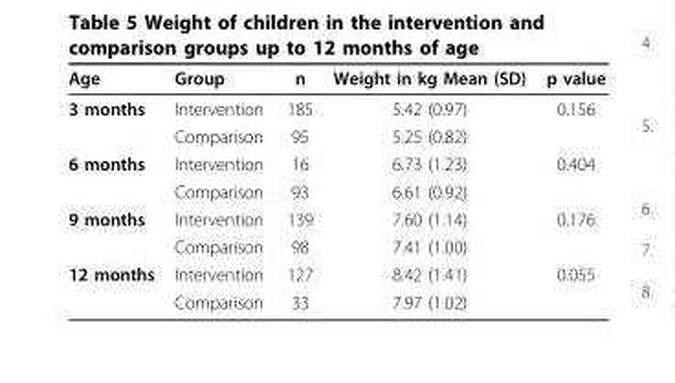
<table><thead><tr><td>Age</td><td>Group</td><td>n</td><td>Weight in kg Mean (SD)</td><td>p value</td></tr></thead><tbody><tr><td rowspan="2">3 months</td><td>Intervention</td><td>185</td><td>5.42 (0.97)</td><td>0.156</td></tr><tr><td>Comparison</td><td>95</td><td>5.25 (0.82)</td><td></td></tr><tr><td rowspan="2">6 months</td><td>Intervention</td><td>16</td><td>6.73 (1.23)</td><td>0.404</td></tr><tr><td>Comparison</td><td>93</td><td>6.61 (0.92)</td><td></td></tr><tr><td rowspan="2">9 months</td><td>Intervention</td><td>139</td><td>7.60 (1.14)</td><td>0.176</td></tr><tr><td>Comparison</td><td>98</td><td>7.41 (1.00)</td><td></td></tr><tr><td rowspan="2">12 months</td><td>Intervention</td><td>127</td><td>8.42 (1.41)</td><td>0.055</td></tr><tr><td>Comparison</td><td>33</td><td>7.97 (1.02)</td><td></td></tr></tbody></table>